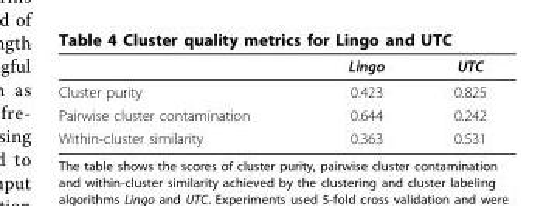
<table><thead><tr><td></td><td>Lingo</td><td>UTC</td></tr></thead><tbody><tr><td>Cluster purity</td><td>0.423</td><td>0.825</td></tr><tr><td>Pairwise cluster contamination</td><td>0.644</td><td>0.242</td></tr><tr><td>Within-cluster similarity</td><td>0.363</td><td>0.531</td></tr></tbody></table>